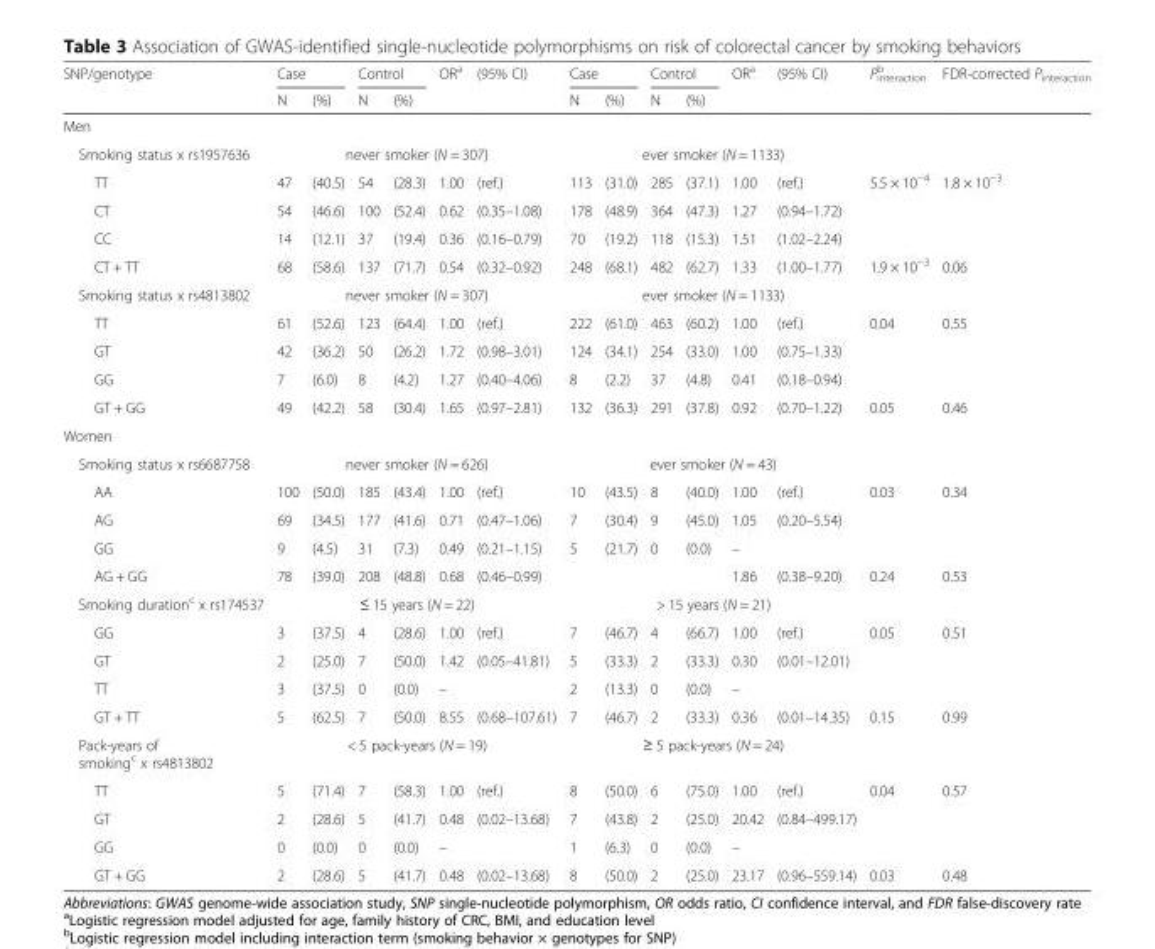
<table><thead><tr><td rowspan="2">SNP/genotype</td><td colspan="2">Case</td><td colspan="2">Control</td><td rowspan="2">OR<sup>a</sup></td><td rowspan="2">(95% CI)</td><td colspan="2">Case</td><td colspan="2">Control</td><td rowspan="2">OR<sup>a</sup></td><td rowspan="2">(95% CI)</td><td rowspan="2">P<sub>interaction</sub> <sup>b</sup></td><td rowspan="2">FDR-corrected P<sub>interaction</sub></td></tr><tr><td>N</td><td>(%)</td><td>N</td><td>(%)</td><td>N</td><td>(%)</td><td>N</td><td>(%)</td></tr></thead><tbody><tr><td colspan="15">Men</td></tr><tr><td>Smoking status x rs1957636</td><td colspan="6">never smoker (N = 307)</td><td colspan="6">ever smoker (N = 1133)</td><td></td><td></td></tr><tr><td>TT</td><td>47</td><td>(40.5)</td><td>54</td><td>(28.3)</td><td>1.00</td><td>(ref.)</td><td>113</td><td>(31.0)</td><td>285</td><td>(37.1)</td><td>1.00</td><td>(ref.)</td><td rowspan="3">5.5 × 10<sup>−4</sup></td><td rowspan="3">1.8 × 10<sup>−3</sup></td></tr><tr><td>CT</td><td>54</td><td>(46.6)</td><td>100</td><td>(52.4)</td><td>0.62</td><td>(0.35–1.08)</td><td>178</td><td>(48.9)</td><td>364</td><td>(47.3)</td><td>1.27</td><td>(0.94–1.72)</td></tr><tr><td>CC</td><td>14</td><td>(12.1)</td><td>37</td><td>(19.4)</td><td>0.36</td><td>(0.16–0.79)</td><td>70</td><td>(19.2)</td><td>118</td><td>(15.3)</td><td>1.51</td><td>(1.02–2.24)</td></tr><tr><td>CT + TT</td><td>68</td><td>(58.6)</td><td>137</td><td>(71.7)</td><td>0.54</td><td>(0.32–0.92)</td><td>248</td><td>(68.1)</td><td>482</td><td>(62.7)</td><td>1.33</td><td>(1.00–1.77)</td><td>1.9 × 10<sup>−3</sup></td><td>0.06</td></tr><tr><td>Smoking status x rs4813802</td><td colspan="6">never smoker (N = 307)</td><td colspan="6">ever smoker (N = 1133)</td><td></td><td></td></tr><tr><td>TT</td><td>61</td><td>(52.6)</td><td>123</td><td>(64.4)</td><td>1.00</td><td>(ref.)</td><td>222</td><td>(61.0)</td><td>463</td><td>(60.2)</td><td>1.00</td><td>(ref.)</td><td rowspan="3">0.04</td><td rowspan="3">0.55</td></tr><tr><td>GT</td><td>42</td><td>(36.2)</td><td>50</td><td>(26.2)</td><td>1.72</td><td>(0.98–3.01)</td><td>124</td><td>(34.1)</td><td>254</td><td>(33.0)</td><td>1.00</td><td>(0.75–1.33)</td></tr><tr><td>GG</td><td>7</td><td>(6.0)</td><td>8</td><td>(4.2)</td><td>1.27</td><td>(0.40–4.06)</td><td>8</td><td>(2.2)</td><td>37</td><td>(4.8)</td><td>0.41</td><td>(0.18–0.94)</td></tr><tr><td>GT + GG</td><td>49</td><td>(42.2)</td><td>58</td><td>(30.4)</td><td>1.65</td><td>(0.97–2.81)</td><td>132</td><td>(36.3)</td><td>291</td><td>(37.8)</td><td>0.92</td><td>(0.70–1.22)</td><td>0.05</td><td>0.46</td></tr><tr><td colspan="15">Women</td></tr><tr><td>Smoking status x rs6687758</td><td colspan="6">never smoker (N = 626)</td><td colspan="6">ever smoker (N = 43)</td><td></td><td></td></tr><tr><td>AA</td><td>100</td><td>(50.0)</td><td>185</td><td>(43.4)</td><td>1.00</td><td>(ref.)</td><td>10</td><td>(43.5)</td><td>8</td><td>(40.0)</td><td>1.00</td><td>(ref.)</td><td rowspan="3">0.03</td><td rowspan="3">0.34</td></tr><tr><td>AG</td><td>69</td><td>(34.5)</td><td>177</td><td>(41.6)</td><td>0.71</td><td>(0.47–1.06)</td><td>7</td><td>(30.4)</td><td>9</td><td>(45.0)</td><td>1.05</td><td>(0.20–5.54)</td></tr><tr><td>GG</td><td>9</td><td>(4.5)</td><td>31</td><td>(7.3)</td><td>0.49</td><td>(0.21–1.15)</td><td>5</td><td>(21.7)</td><td>0</td><td>(0.0)</td><td>–</td><td></td></tr><tr><td>AG + GG</td><td>78</td><td>(39.0)</td><td>208</td><td>(48.8)</td><td>0.68</td><td>(0.46–0.99)</td><td></td><td></td><td></td><td></td><td>1.86</td><td>(0.38–9.20)</td><td>0.24</td><td>0.53</td></tr><tr><td>Smoking duration<sup>c</sup> x rs174537</td><td colspan="6">≤ 15 years (N = 22)</td><td colspan="6">&gt; 15 years (N = 21)</td><td></td><td></td></tr><tr><td>GG</td><td>3</td><td>(37.5)</td><td>4</td><td>(28.6)</td><td>1.00</td><td>(ref.)</td><td>7</td><td>(46.7)</td><td>4</td><td>(66.7)</td><td>1.00</td><td>(ref.)</td><td rowspan="3">0.05</td><td rowspan="3">0.51</td></tr><tr><td>GT</td><td>2</td><td>(25.0)</td><td>7</td><td>(50.0)</td><td>1.42</td><td>(0.05–41.81)</td><td>5</td><td>(33.3)</td><td>2</td><td>(33.3)</td><td>0.30</td><td>(0.01–12.01)</td></tr><tr><td>TT</td><td>3</td><td>(37.5)</td><td>0</td><td>(0.0)</td><td>–</td><td></td><td>2</td><td>(13.3)</td><td>0</td><td>(0.0)</td><td>–</td><td></td></tr><tr><td>GT + TT</td><td>5</td><td>(62.5)</td><td>7</td><td>(50.0)</td><td>8.55</td><td>(0.68–107.61)</td><td>7</td><td>(46.7)</td><td>2</td><td>(33.3)</td><td>0.36</td><td>(0.01–14.35)</td><td>0.15</td><td>0.99</td></tr><tr><td>Pack-years of smoking<sup>c</sup> x rs4813802</td><td colspan="6">&lt; 5 pack-years (N = 19)</td><td colspan="6">≥ 5 pack-years (N = 24)</td><td></td><td></td></tr><tr><td>TT</td><td>5</td><td>(71.4)</td><td>7</td><td>(58.3)</td><td>1.00</td><td>(ref.)</td><td>8</td><td>(50.0)</td><td>6</td><td>(75.0)</td><td>1.00</td><td>(ref.)</td><td rowspan="3">0.04</td><td rowspan="3">0.57</td></tr><tr><td>GT</td><td>2</td><td>(28.6)</td><td>5</td><td>(41.7)</td><td>0.48</td><td>(0.02–13.68)</td><td>7</td><td>(43.8)</td><td>2</td><td>(25.0)</td><td>20.42</td><td>(0.84–499.17)</td></tr><tr><td>GG</td><td>0</td><td>(0.0)</td><td>0</td><td>(0.0)</td><td>–</td><td></td><td>1</td><td>(6.3)</td><td>0</td><td>(0.0)</td><td>–</td><td></td></tr><tr><td>GT + GG</td><td>2</td><td>(28.6)</td><td>5</td><td>(41.7)</td><td>0.48</td><td>(0.02–13.68)</td><td>8</td><td>(50.0)</td><td>2</td><td>(25.0)</td><td>23.17</td><td>(0.96–559.14)</td><td>0.03</td><td>0.48</td></tr></tbody></table>